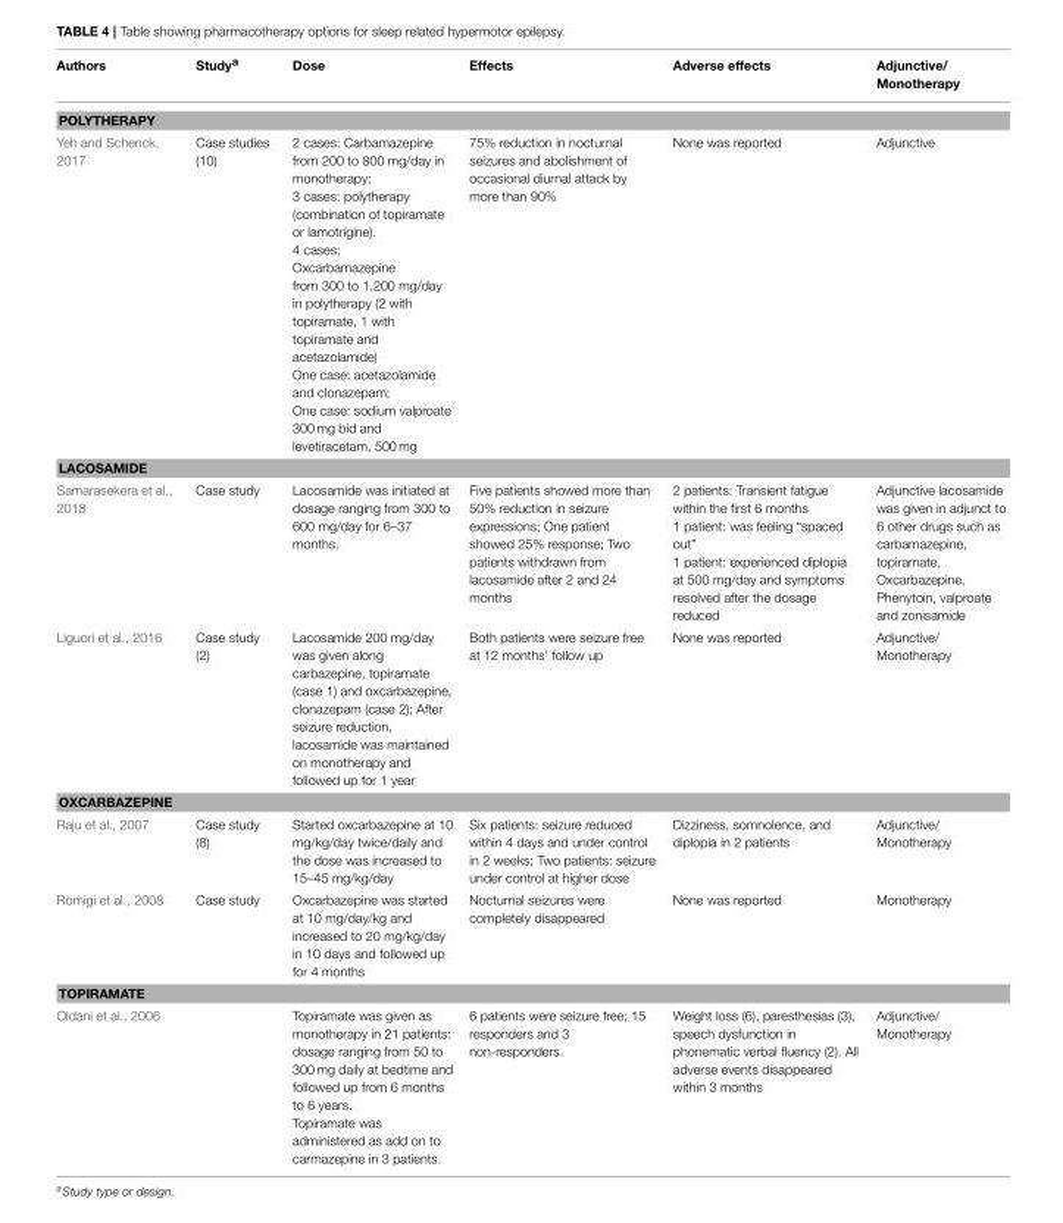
<table><thead><tr><td>Authors</td><td>Study<sup>a</sup></td><td>Dose</td><td>Effects</td><td>Adverse effects</td><td>Adjunctive/ Monotherapy</td></tr></thead><tbody><tr><td colspan="6">POLYTHERAPY</td></tr><tr><td>Yeh and Schenck, 2017</td><td>Case studies (10)</td><td>2 cases: Carbamazepine from 200 to 800 mg/day in monotherapy; 3 cases: polytherapy (combination of topiramate or lamotrigine). 4 cases: Oxcarbamazepine from 300 to 1,200 mg/day in polytherapy (2 with topiramate, 1 with topiramate and acetazolamide) One case: acetazolamide and clonazepam; One case: sodium valproate 300 mg bid and levetiracetam, 500 mg</td><td>75% reduction in nocturnal seizures and abolishment of occasional diurnal attack by more than 90%</td><td>None was reported</td><td>Adjunctive</td></tr><tr><td colspan="6">LACOSAMIDE</td></tr><tr><td>Samarasekera et al., 2018</td><td>Case study</td><td>Lacosamide was initiated at dosage ranging from 300 to 600 mg/day for 6–37 months.</td><td>Five patients showed more than 50% reduction in seizure expressions; One patient showed 25% response; Two patients withdrawn from lacosamide after 2 and 24 months</td><td>2 patients: Transient fatigue within the first 6 months 1 patient: was feeling “spaced out” 1 patient: experienced diplopia at 500 mg/day and symptoms resolved after the dosage reduced</td><td>Adjunctive lacosamide was given in adjunct to 6 other drugs such as carbamazepine, topiramate, Oxcarbazepine, Phenytoin, valproate and zonisamide</td></tr><tr><td>Liguori et al., 2016</td><td>Case study (2)</td><td>Lacosamide 200 mg/day was given along carbazepine, topiramate (case 1) and oxcarbazepine, clonazepam (case 2); After seizure reduction, lacosamide was maintained on monotherapy and followed up for 1 year</td><td>Both patients were seizure free at 12 months’ follow up</td><td>None was reported</td><td>Adjunctive/ Monotherapy</td></tr><tr><td colspan="6">OXCARBAZEPINE</td></tr><tr><td>Raju et al., 2007</td><td>Case study (8)</td><td>Started oxcarbazepine at 10 mg/kg/day twice/daily and the dose was increased to 15–45 mg/kg/day</td><td>Six patients: seizure reduced within 4 days and under control in 2 weeks; Two patients: seizure under control at higher dose</td><td>Dizziness, somnolence, and diplopia in 2 patients</td><td>Adjunctive/ Monotherapy</td></tr><tr><td>Romigi et al., 2008</td><td>Case study</td><td>Oxcarbazepine was started at 10 mg/day/kg and increased to 20 mg/kg/day in 10 days and followed up for 4 months</td><td>Nocturnal seizures were completely disappeared</td><td>None was reported</td><td>Monotherapy</td></tr><tr><td colspan="6">TOPIRAMATE</td></tr><tr><td>Oldani et al., 2006</td><td></td><td>Topiramate was given as monotherapy in 21 patients: dosage ranging from 50 to 300 mg daily at bedtime and followed up from 6 months to 6 years. Topiramate was administered as add on to carmazepine in 3 patients.</td><td>6 patients were seizure free; 15 responders and 3 non-responders.</td><td>Weight loss (6), paresthesias (3), speech dysfunction in phonematic verbal fluency (2). All adverse events disappeared within 3 months</td><td>Adjunctive/ Monotherapy</td></tr></tbody></table>